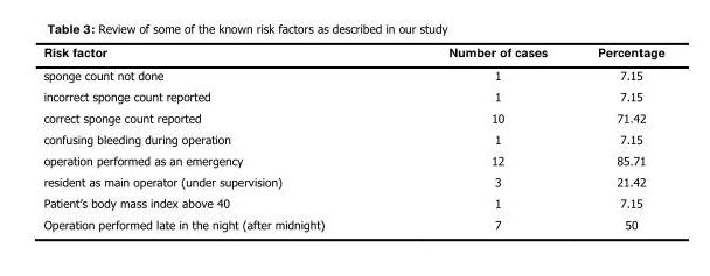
<table><thead><tr><td>Risk factor</td><td>Number of cases</td><td>Percentage</td></tr></thead><tbody><tr><td>sponge count not done</td><td>1</td><td>7.15</td></tr><tr><td>incorrect sponge count reported</td><td>1</td><td>7.15</td></tr><tr><td>correct sponge count reported</td><td>10</td><td>71.42</td></tr><tr><td>confusing bleeding during operation</td><td>1</td><td>7.15</td></tr><tr><td>operation performed as an emergency</td><td>12</td><td>85.71</td></tr><tr><td>resident as main operator (under supervision)</td><td>3</td><td>21.42</td></tr><tr><td>Patient’s body mass index above 40</td><td>1</td><td>7.15</td></tr><tr><td>Operation performed late in the night (after midnight)</td><td>7</td><td>50</td></tr></tbody></table>